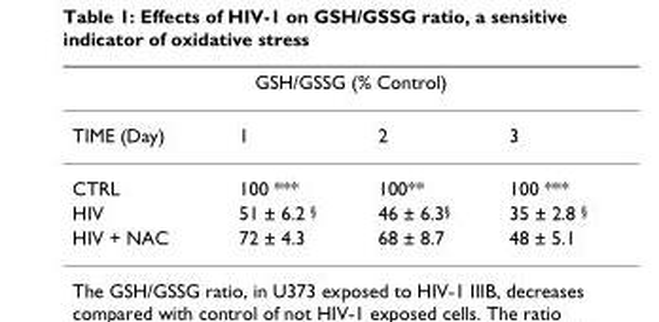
<table><thead><tr><td colspan="4">GSH/GSSG (% Control)</td></tr><tr><td>TIME (Day)</td><td>1</td><td>2</td><td>3</td></tr></thead><tbody><tr><td>CTRL</td><td>100 ***</td><td>100**</td><td>100 ***</td></tr><tr><td>HIV</td><td>51 ± 6.2 <sup>§</sup></td><td>46 ± 6.3<sup>§</sup></td><td>35 ± 2.8 <sup>§</sup></td></tr><tr><td>HIV + NAC</td><td>72 ± 4.3</td><td>68 ± 8.7</td><td>48 ± 5.1</td></tr></tbody></table>